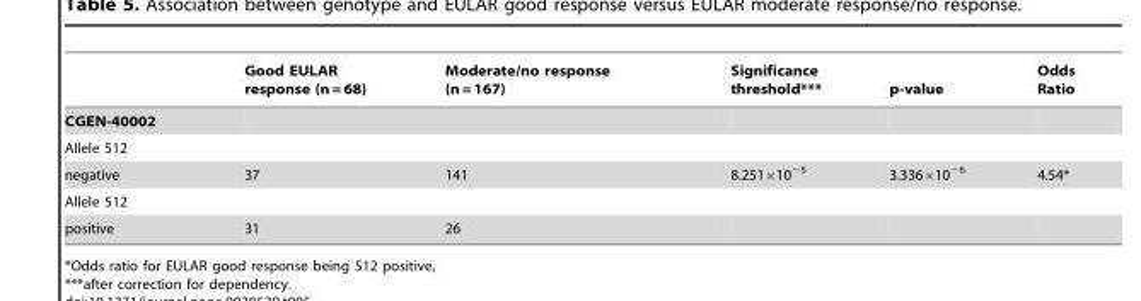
<table><thead><tr><td></td><td>Good EULAR response (n = 68)</td><td>Moderate/no response (n = 167)</td><td>Significance threshold***</td><td>p-value</td><td>Odds Ratio</td></tr></thead><tbody><tr><td colspan="6">CGEN-40002</td></tr><tr><td colspan="6">Allele 512</td></tr><tr><td>negative</td><td>37</td><td>141</td><td>8.251×10<sup>−5</sup></td><td>3.336×10<sup>−6</sup></td><td>4.54*</td></tr><tr><td colspan="6">Allele 512</td></tr><tr><td>positive</td><td>31</td><td>26</td><td></td><td></td><td></td></tr></tbody></table>